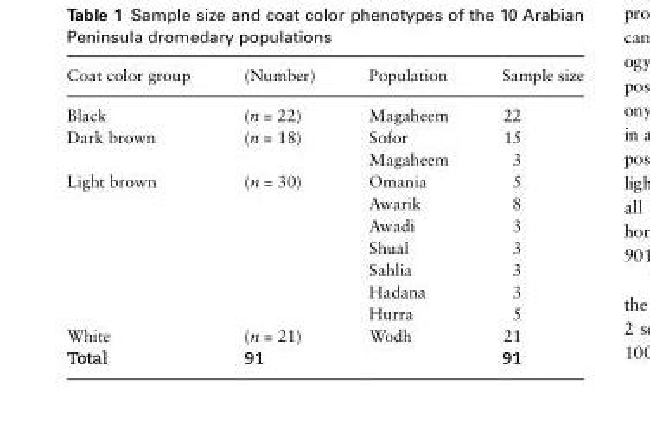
<table><thead><tr><td>Coat color group</td><td>(Number)</td><td>Population</td><td>Sample size</td></tr></thead><tbody><tr><td>Black</td><td>(n = 22)</td><td>Magaheem</td><td>22</td></tr><tr><td rowspan="2">Dark brown</td><td rowspan="2">(n = 18)</td><td>Sofor</td><td>15</td></tr><tr><td>Magaheem</td><td>3</td></tr><tr><td rowspan="7">Light brown</td><td rowspan="7">(n = 30)</td><td>Omania</td><td>5</td></tr><tr><td>Awarik</td><td>8</td></tr><tr><td>Awadi</td><td>3</td></tr><tr><td>Shual</td><td>3</td></tr><tr><td>Sahlia</td><td>3</td></tr><tr><td>Hadana</td><td>3</td></tr><tr><td>Hurra</td><td>5</td></tr><tr><td>White</td><td>(n = 21)</td><td>Wodh</td><td>21</td></tr><tr><td>Total</td><td>91</td><td></td><td>91</td></tr></tbody></table>